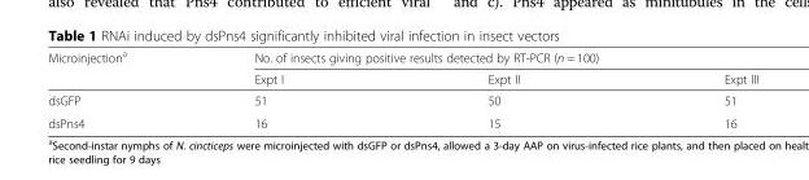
<table><thead><tr><td rowspan="2">Microinjection<sup>a</sup></td><td colspan="3">No. of insects giving positive results detected by RT-PCR (n = 100)</td></tr><tr><td>Expt I</td><td>Expt II</td><td>Expt III</td></tr></thead><tbody><tr><td>dsGFP</td><td>51</td><td>50</td><td>51</td></tr><tr><td>dsPns4</td><td>16</td><td>15</td><td>16</td></tr></tbody></table>